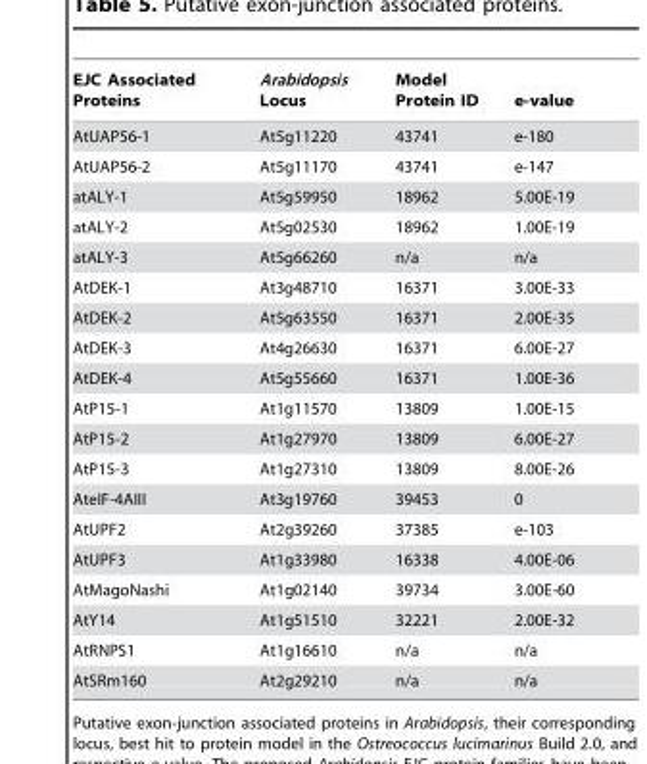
<table><thead><tr><td>EJC Associated Proteins</td><td>Arabidopsis Locus</td><td>Model Protein ID</td><td>e-value</td></tr></thead><tbody><tr><td>AtUAP56-1</td><td>At5g11220</td><td>43741</td><td>e-180</td></tr><tr><td>AtUAP56-2</td><td>At5g11170</td><td>43741</td><td>e-147</td></tr><tr><td>atALY-1</td><td>At5g59950</td><td>18962</td><td>5.00E-19</td></tr><tr><td>atALY-2</td><td>At5g02530</td><td>18962</td><td>1.00E-19</td></tr><tr><td>atALY-3</td><td>At5g66260</td><td>n/a</td><td>n/a</td></tr><tr><td>AtDEK-1</td><td>At3g48710</td><td>16371</td><td>3.00E-33</td></tr><tr><td>AtDEK-2</td><td>At5g63550</td><td>16371</td><td>2.00E-35</td></tr><tr><td>AtDEK-3</td><td>At4g26630</td><td>16371</td><td>6.00E-27</td></tr><tr><td>AtDEK-4</td><td>At5g55660</td><td>16371</td><td>1.00E-36</td></tr><tr><td>AtP15-1</td><td>At1g11570</td><td>13809</td><td>1.00E-15</td></tr><tr><td>AtP15-2</td><td>At1g27970</td><td>13809</td><td>6.00E-27</td></tr><tr><td>AtP15-3</td><td>At1g27310</td><td>13809</td><td>8.00E-26</td></tr><tr><td>AteIF-4AIII</td><td>At3g19760</td><td>39453</td><td>0</td></tr><tr><td>AtUPF2</td><td>At2g39260</td><td>37385</td><td>e-103</td></tr><tr><td>AtUPF3</td><td>At1g33980</td><td>16338</td><td>4.00E-06</td></tr><tr><td>AtMagoNashi</td><td>At1g02140</td><td>39734</td><td>3.00E-60</td></tr><tr><td>AtY14</td><td>At1g51510</td><td>32221</td><td>2.00E-32</td></tr><tr><td>AtRNPS1</td><td>At1g16610</td><td>n/a</td><td>n/a</td></tr><tr><td>AtSRm160</td><td>At2g29210</td><td>n/a</td><td>n/a</td></tr></tbody></table>